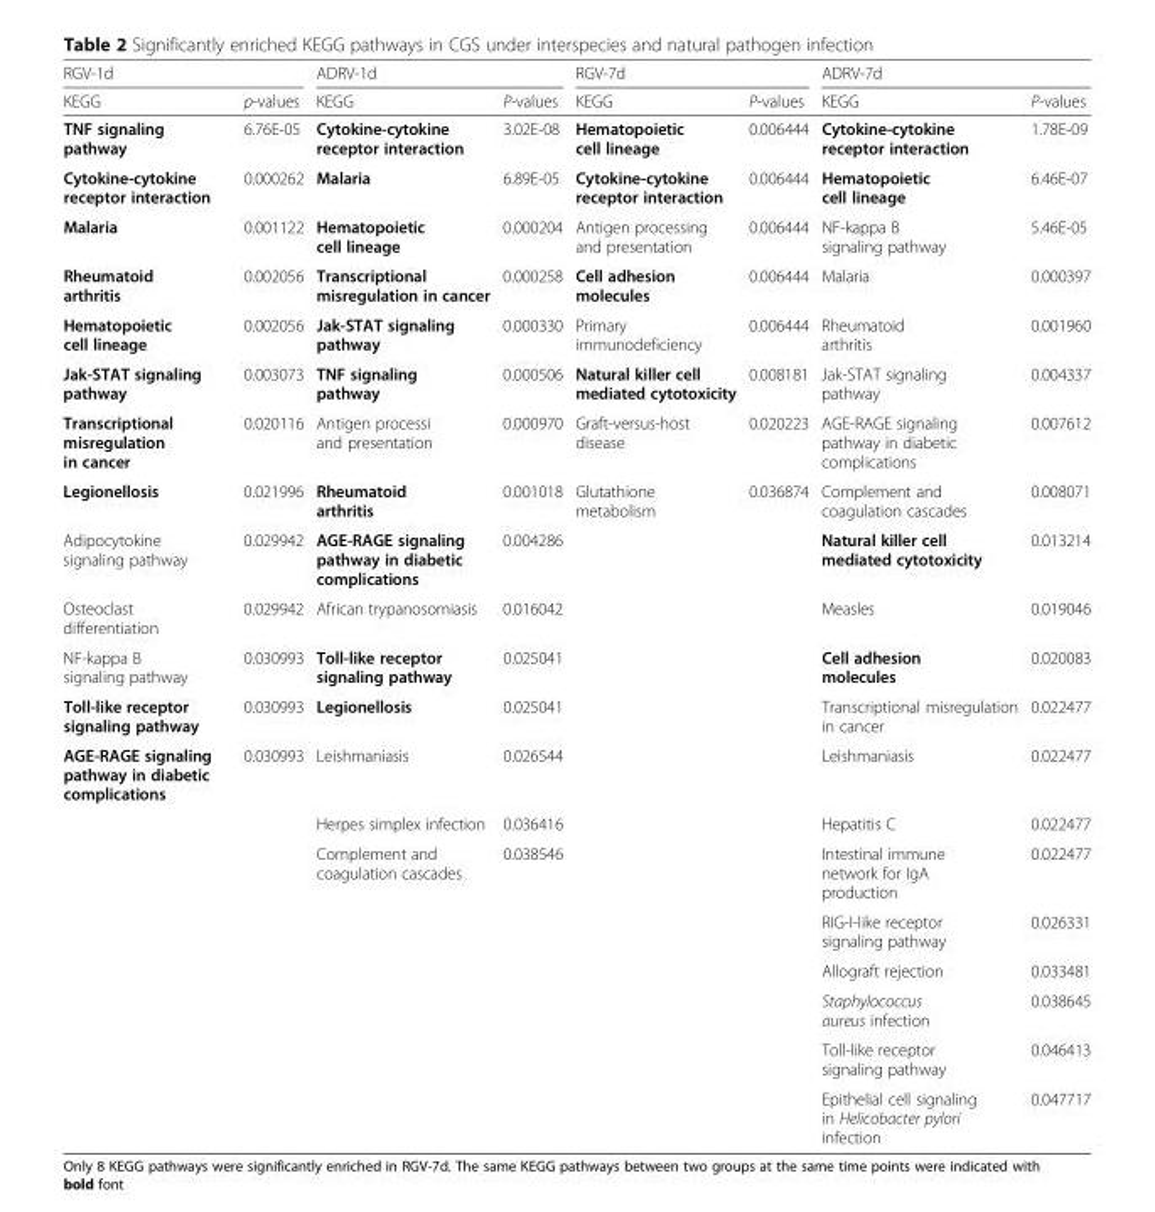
<table><thead><tr><td colspan="2">RGV-1d</td><td colspan="2">ADRV-1d</td><td colspan="2">RGV-7d</td><td colspan="2">ADRV-7d</td></tr><tr><td>KEGG</td><td>p-values</td><td>KEGG</td><td>P-values</td><td>KEGG</td><td>P-values</td><td>KEGG</td><td>P-values</td></tr></thead><tbody><tr><td>TNF signaling pathway</td><td>6.76E-05</td><td>Cytokine-cytokine receptor interaction</td><td>3.02E-08</td><td>Hematopoietic cell lineage</td><td>0.006444</td><td>Cytokine-cytokine receptor interaction</td><td>1.78E-09</td></tr><tr><td>Cytokine-cytokine receptor interaction</td><td>0.000262</td><td>Malaria</td><td>6.89E-05</td><td>Cytokine-cytokine receptor interaction</td><td>0.006444</td><td>Hematopoietic cell lineage</td><td>6.46E-07</td></tr><tr><td>Malaria</td><td>0.001122</td><td>Hematopoietic cell lineage</td><td>0.000204</td><td>Antigen processing and presentation</td><td>0.006444</td><td>NF-kappa B signaling pathway</td><td>5.46E-05</td></tr><tr><td>Rheumatoid arthritis</td><td>0.002056</td><td>Transcriptional misregulation in cancer</td><td>0.000258</td><td>Cell adhesion molecules</td><td>0.006444</td><td>Malaria</td><td>0.000397</td></tr><tr><td>Hematopoietic cell lineage</td><td>0.002056</td><td>Jak-STAT signaling pathway</td><td>0.000330</td><td>Primary immunodeficiency</td><td>0.006444</td><td>Rheumatoid arthritis</td><td>0.001960</td></tr><tr><td>Jak-STAT signaling pathway</td><td>0.003073</td><td>TNF signaling pathway</td><td>0.000506</td><td>Natural killer cell mediated cytotoxicity</td><td>0.008181</td><td>Jak-STAT signaling pathway</td><td>0.004337</td></tr><tr><td>Transcriptional misregulation in cancer</td><td>0.020116</td><td>Antigen processi and presentation</td><td>0.000970</td><td>Graft-versus-host disease</td><td>0.020223</td><td>AGE-RAGE signaling pathway in diabetic complications</td><td>0.007612</td></tr><tr><td>Legionellosis</td><td>0.021996</td><td>Rheumatoid arthritis</td><td>0.001018</td><td>Glutathione metabolism</td><td>0.036874</td><td>Complement and coagulation cascades</td><td>0.008071</td></tr><tr><td>Adipocytokine signaling pathway</td><td>0.029942</td><td>AGE-RAGE signaling pathway in diabetic complications</td><td>0.004286</td><td></td><td></td><td>Natural killer cell mediated cytotoxicity</td><td>0.013214</td></tr><tr><td>Osteoclast differentiation</td><td>0.029942</td><td>African trypanosomiasis</td><td>0.016042</td><td></td><td></td><td>Measles</td><td>0.019046</td></tr><tr><td>NF-kappa B signaling pathway</td><td>0.030993</td><td>Toll-like receptor signaling pathway</td><td>0.025041</td><td></td><td></td><td>Cell adhesion molecules</td><td>0.020083</td></tr><tr><td>Toll-like receptor signaling pathway</td><td>0.030993</td><td>Legionellosis</td><td>0.025041</td><td></td><td></td><td>Transcriptional misregulation in cancer</td><td>0.022477</td></tr><tr><td rowspan="8">AGE-RAGE signaling pathway in diabetic complications</td><td>0.030993</td><td>Leishmaniasis</td><td>0.026544</td><td></td><td></td><td>Leishmaniasis</td><td>0.022477</td></tr><tr><td></td><td>Herpes simplex infection</td><td>0.036416</td><td></td><td></td><td>Hepatitis C</td><td>0.022477</td></tr><tr><td></td><td>Complement and coagulation cascades</td><td>0.038546</td><td></td><td></td><td>Intestinal immune network for IgA production</td><td>0.022477</td></tr><tr><td></td><td></td><td></td><td></td><td></td><td>RIG-I-like receptor signaling pathway</td><td>0.026331</td></tr><tr><td></td><td></td><td></td><td></td><td></td><td>Allograft rejection</td><td>0.033481</td></tr><tr><td></td><td></td><td></td><td></td><td></td><td>Staphylococcus aureus infection</td><td>0.038645</td></tr><tr><td></td><td></td><td></td><td></td><td></td><td>Toll-like receptor signaling pathway</td><td>0.046413</td></tr><tr><td></td><td></td><td></td><td></td><td></td><td>Epithelial cell signaling in Helicobacter pylori infection</td><td>0.047717</td></tr></tbody></table>